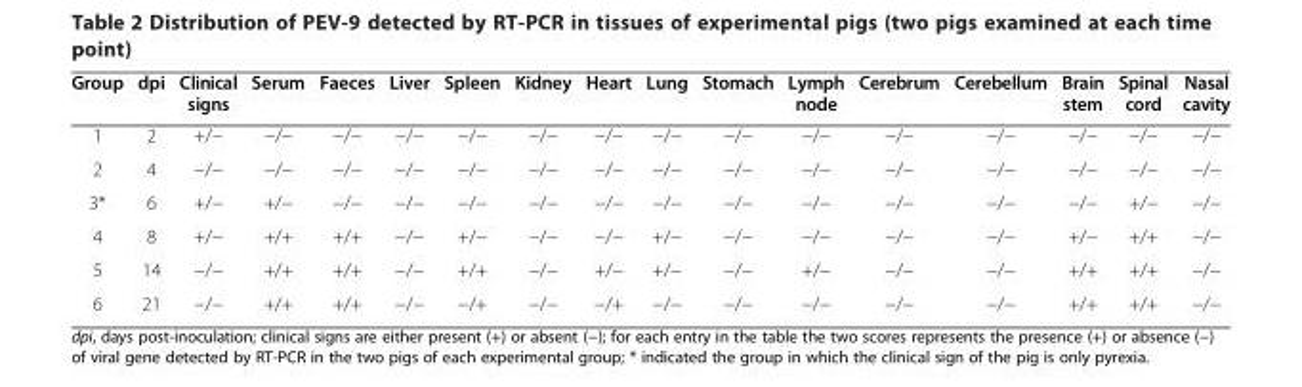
<table><thead><tr><td>Group</td><td>dpi</td><td>Clinical signs</td><td>Serum</td><td>Faeces</td><td>Liver</td><td>Spleen</td><td>Kidney</td><td>Heart</td><td>Lung</td><td>Stomach</td><td>Lymph node</td><td>Cerebrum</td><td>Cerebellum</td><td>Brain stem</td><td>Spinal cord</td><td>Nasal cavity</td></tr></thead><tbody><tr><td>1</td><td>2</td><td>+/−</td><td>−/−</td><td>−/−</td><td>−/−</td><td>−/−</td><td>−/−</td><td>−/−</td><td>−/−</td><td>−/−</td><td>−/−</td><td>−/−</td><td>−/−</td><td>−/−</td><td>−/−</td><td>−/−</td></tr><tr><td>2</td><td>4</td><td>−/−</td><td>−/−</td><td>−/−</td><td>−/−</td><td>−/−</td><td>−/−</td><td>−/−</td><td>−/−</td><td>−/−</td><td>−/−</td><td>−/−</td><td>−/−</td><td>−/−</td><td>−/−</td><td>−/−</td></tr><tr><td>3*</td><td>6</td><td>+/−</td><td>+/−</td><td>−/−</td><td>−/−</td><td>−/−</td><td>−/−</td><td>−/−</td><td>−/−</td><td>−/−</td><td>−/−</td><td>−/−</td><td>−/−</td><td>−/−</td><td>+/−</td><td>−/−</td></tr><tr><td>4</td><td>8</td><td>+/−</td><td>+/+</td><td>+/+</td><td>−/−</td><td>+/−</td><td>−/−</td><td>−/−</td><td>+/−</td><td>−/−</td><td>−/−</td><td>−/−</td><td>−/−</td><td>+/−</td><td>+/+</td><td>−/−</td></tr><tr><td>5</td><td>14</td><td>−/−</td><td>+/+</td><td>+/+</td><td>−/−</td><td>+/+</td><td>−/−</td><td>+/−</td><td>+/−</td><td>−/−</td><td>+/−</td><td>−/−</td><td>−/−</td><td>+/+</td><td>+/+</td><td>−/−</td></tr><tr><td>6</td><td>21</td><td>−/−</td><td>+/+</td><td>+/+</td><td>−/−</td><td>−/+</td><td>−/−</td><td>−/+</td><td>−/−</td><td>−/−</td><td>−/−</td><td>−/−</td><td>−/−</td><td>+/+</td><td>+/+</td><td>−/−</td></tr></tbody></table>